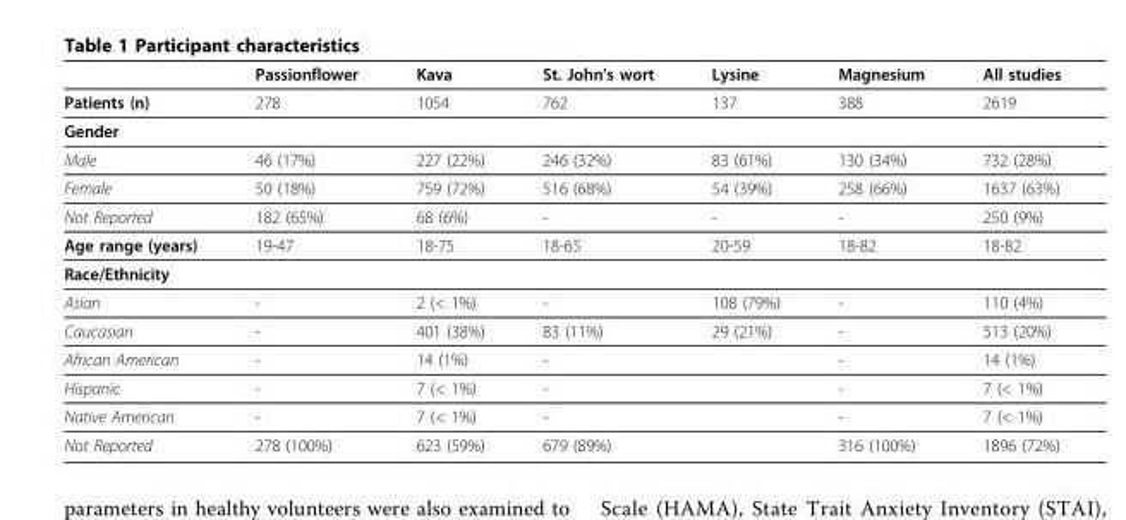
<table><thead><tr><td></td><td>Passionflower</td><td>Kava</td><td>St. John’s wort</td><td>Lysine</td><td>Magnesium</td><td>All studies</td></tr></thead><tbody><tr><td>Patients (n)</td><td>278</td><td>1054</td><td>762</td><td>137</td><td>388</td><td>2619</td></tr><tr><td colspan="7">Gender</td></tr><tr><td>Male</td><td>46 (17%)</td><td>227 (22%)</td><td>246 (32%)</td><td>83 (61%)</td><td>130 (34%)</td><td>732 (28%)</td></tr><tr><td>Female</td><td>50 (18%)</td><td>759 (72%)</td><td>516 (68%)</td><td>54 (39%)</td><td>258 (66%)</td><td>1637 (63%)</td></tr><tr><td>Not Reported</td><td>182 (65%)</td><td>68 (6%)</td><td>-</td><td>-</td><td>-</td><td>250 (9%)</td></tr><tr><td>Age range (years)</td><td>19-47</td><td>18-75</td><td>18-65</td><td>20-59</td><td>18-82</td><td>18-82</td></tr><tr><td colspan="7">Race/Ethnicity</td></tr><tr><td>Asian</td><td>-</td><td>2 (&lt; 1%)</td><td>-</td><td>108 (79%)</td><td>-</td><td>110 (4%)</td></tr><tr><td>Caucasian</td><td>-</td><td>401 (38%)</td><td>83 (11%)</td><td>29 (21%)</td><td>-</td><td>513 (20%)</td></tr><tr><td>African American</td><td>-</td><td>14 (1%)</td><td>-</td><td></td><td>-</td><td>14 (1%)</td></tr><tr><td>Hispanic</td><td>-</td><td>7 (&lt; 1%)</td><td>-</td><td></td><td>-</td><td>7 (&lt; 1%)</td></tr><tr><td>Native American</td><td>-</td><td>7 (&lt; 1%)</td><td>-</td><td></td><td>-</td><td>7 (&lt; 1%)</td></tr><tr><td>Not Reported</td><td>278 (100%)</td><td>623 (59%)</td><td>679 (89%)</td><td></td><td>316 (100%)</td><td>1896 (72%)</td></tr></tbody></table>